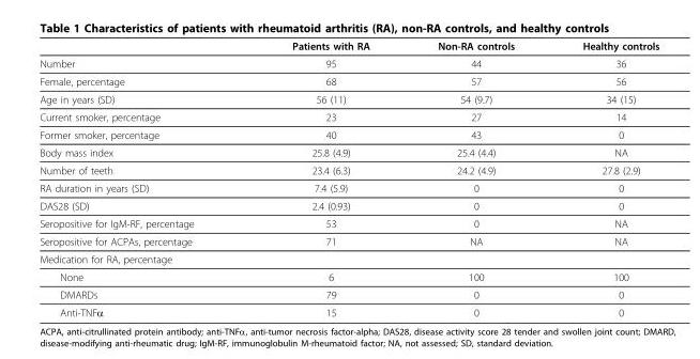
<table><thead><tr><td></td><td>Patients with RA</td><td>Non-RA controls</td><td>Healthy controls</td></tr></thead><tbody><tr><td>Number</td><td>95</td><td>44</td><td>36</td></tr><tr><td>Female, percentage</td><td>68</td><td>57</td><td>56</td></tr><tr><td>Age in years (SD)</td><td>56 (11)</td><td>54 (9.7)</td><td>34 (15)</td></tr><tr><td>Current smoker, percentage</td><td>23</td><td>27</td><td>14</td></tr><tr><td>Former smoker, percentage</td><td>40</td><td>43</td><td>0</td></tr><tr><td>Body mass index</td><td>25.8 (4.9)</td><td>25.4 (4.4)</td><td>NA</td></tr><tr><td>Number of teeth</td><td>23.4 (6.3)</td><td>24.2 (4.9)</td><td>27.8 (2.9)</td></tr><tr><td>RA duration in years (SD)</td><td>7.4 (5.9)</td><td>0</td><td>0</td></tr><tr><td>DAS28 (SD)</td><td>2.4 (0.93)</td><td>0</td><td>0</td></tr><tr><td>Seropositive for IgM-RF, percentage</td><td>53</td><td>0</td><td>NA</td></tr><tr><td>Seropositive for ACPAs, percentage</td><td>71</td><td>NA</td><td>NA</td></tr><tr><td colspan="4">Medication for RA, percentage</td></tr><tr><td>None</td><td>6</td><td>100</td><td>100</td></tr><tr><td>DMARDs</td><td>79</td><td>0</td><td>0</td></tr><tr><td>Anti-TNFα</td><td>15</td><td>0</td><td>0</td></tr></tbody></table>